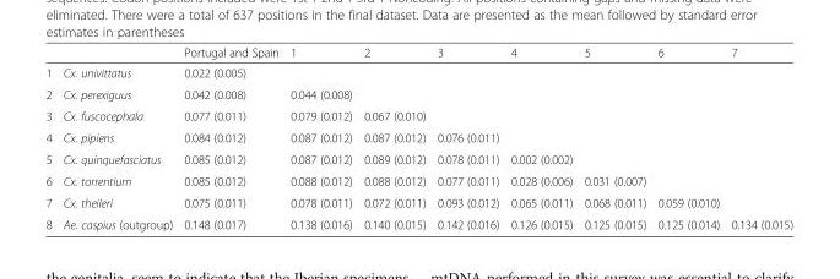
<table><thead><tr><td></td><td></td><td>Portugal and Spain</td><td>1</td><td>2</td><td>3</td><td>4</td><td>5</td><td>6</td><td>7</td></tr></thead><tbody><tr><td>1</td><td>Cx. univittatus</td><td>0.022 (0.005)</td><td></td><td></td><td></td><td></td><td></td><td></td><td></td></tr><tr><td>2</td><td>Cx. perexiguus</td><td>0.042 (0.008)</td><td>0.044 (0.008)</td><td></td><td></td><td></td><td></td><td></td><td></td></tr><tr><td>3</td><td>Cx. fuscocephala</td><td>0.077 (0.011)</td><td>0.079 (0.012)</td><td>0.067 (0.010)</td><td></td><td></td><td></td><td></td><td></td></tr><tr><td>4</td><td>Cx. pipiens</td><td>0.084 (0.012)</td><td>0.087 (0.012)</td><td>0.087 (0.012)</td><td>0.076 (0.011)</td><td></td><td></td><td></td><td></td></tr><tr><td>5</td><td>Cx. quinquefasciatus</td><td>0.085 (0.012)</td><td>0.087 (0.012)</td><td>0.089 (0.012)</td><td>0.078 (0.011)</td><td>0.002 (0.002)</td><td></td><td></td><td></td></tr><tr><td>6</td><td>Cx. torrentium</td><td>0.085 (0.012)</td><td>0.088 (0.012)</td><td>0.088 (0.012)</td><td>0.077 (0.011)</td><td>0.028 (0.006)</td><td>0.031 (0.007)</td><td></td><td></td></tr><tr><td>7</td><td>Cx. theileri</td><td>0.075 (0.011)</td><td>0.078 (0.011)</td><td>0.072 (0.011)</td><td>0.093 (0.012)</td><td>0.065 (0.011)</td><td>0.068 (0.011)</td><td>0.059 (0.010)</td><td></td></tr><tr><td>8</td><td>Ae. caspius (outgroup)</td><td>0.148 (0.017)</td><td>0.138 (0.016)</td><td>0.140 (0.015)</td><td>0.142 (0.016)</td><td>0.126 (0.015)</td><td>0.125 (0.015)</td><td>0.125 (0.014)</td><td>0.134 (0.015)</td></tr></tbody></table>